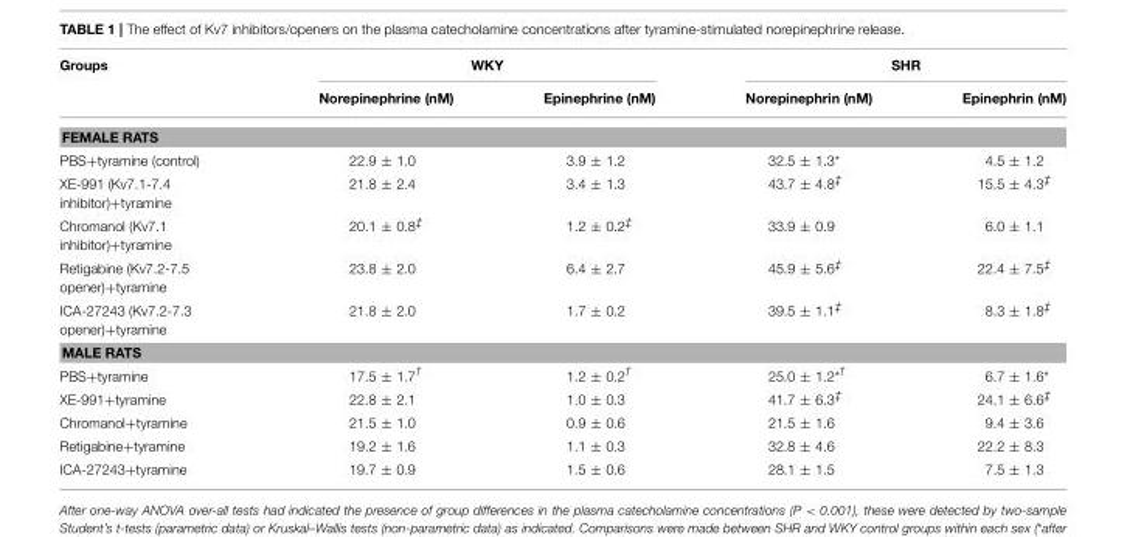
<table><thead><tr><td rowspan="2">Groups</td><td colspan="2">WKY</td><td colspan="2">SHR</td></tr><tr><td>Norepinephrine (nM)</td><td>Epinephrine (nM)</td><td>Norepinephrin (nM)</td><td>Epinephrin (nM)</td></tr></thead><tbody><tr><td colspan="5">FEMALE RATS</td></tr><tr><td>PBS+tyramine (control)</td><td>22.9 ± 1.0</td><td>3.9 ± 1.2</td><td>32.5 ± 1.3*</td><td>4.5 ± 1.2</td></tr><tr><td>XE-991 (Kv7.1-7.4 inhibitor)+tyramine</td><td>21.8 ± 2.4</td><td>3.4 ± 1.3</td><td>43.7 ± 4.8<sup>‡</sup></td><td>15.5 ± 4.3<sup>‡</sup></td></tr><tr><td>Chromanol (Kv7.1 inhibitor)+tyramine</td><td>20.1 ± 0.8<sup>‡</sup></td><td>1.2 ± 0.2<sup>‡</sup></td><td>33.9 ± 0.9</td><td>6.0 ± 1.1</td></tr><tr><td>Retigabine (Kv7.2-7.5 opener)+tyramine</td><td>23.8 ± 2.0</td><td>6.4 ± 2.7</td><td>45.9 ± 5.6<sup>‡</sup></td><td>22.4 ± 7.5<sup>‡</sup></td></tr><tr><td>ICA-27243 (Kv7.2-7.3 opener)+tyramine</td><td>21.8 ± 2.0</td><td>1.7 ± 0.2</td><td>39.5 ± 1.1<sup>‡</sup></td><td>8.3 ± 1.8<sup>‡</sup></td></tr><tr><td colspan="5">MALE RATS</td></tr><tr><td>PBS+tyramine</td><td>17.5 ± 1.7<sup>†</sup></td><td>1.2 ± 0.2<sup>†</sup></td><td>25.0 ± 1.2<sup>*†</sup></td><td>6.7 ± 1.6*</td></tr><tr><td>XE-991+tyramine</td><td>22.8 ± 2.1</td><td>1.0 ± 0.3</td><td>41.7 ± 6.3<sup>‡</sup></td><td>24.1 ± 6.6<sup>‡</sup></td></tr><tr><td>Chromanol+tyramine</td><td>21.5 ± 1.0</td><td>0.9 ± 0.6</td><td>21.5 ± 1.6</td><td>9.4 ± 3.6</td></tr><tr><td>Retigabine+tyramine</td><td>19.2 ± 1.6</td><td>1.1 ± 0.3</td><td>32.8 ± 4.6</td><td>22.2 ± 8.3</td></tr><tr><td>ICA-27243+tyramine</td><td>19.7 ± 0.9</td><td>1.5 ± 0.6</td><td>28.1 ± 1.5</td><td>7.5 ± 1.3</td></tr></tbody></table>